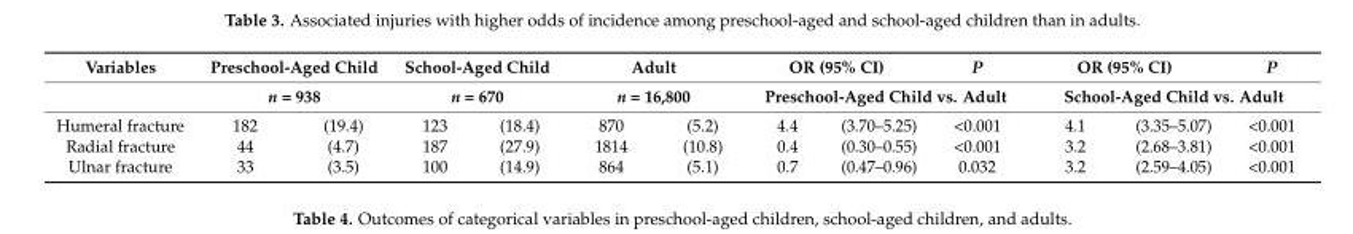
<table><thead><tr><td rowspan="3">Variables Humeral fracture</td><td rowspan="2" colspan="2">Preschool-Aged Child n = 938</td><td rowspan="2" colspan="2">School-Aged Child n = 670</td><td rowspan="2" colspan="2">Adult n = 16,800</td><td colspan="2">OR (95% CI)</td><td>P</td><td colspan="2">OR (95% CI)</td><td>P</td></tr><tr><td colspan="3">Preschool-Aged Child vs. Adult</td><td colspan="3">School-Aged Child vs. Adult</td></tr><tr><td>182</td><td>(19.4)</td><td>123</td><td>(18.4)</td><td>870</td><td>(5.2)</td><td>4.4</td><td>(3.70–5.25)</td><td>&lt;0.001</td><td>4.1</td><td>(3.35–5.07)</td><td>&lt;0.001</td></tr></thead><tbody><tr><td>Radial fracture</td><td>44</td><td>(4.7)</td><td>187</td><td>(27.9)</td><td>1814</td><td>(10.8)</td><td>0.4</td><td>(0.30–0.55)</td><td>&lt;0.001</td><td>3.2</td><td>(2.68–3.81)</td><td>&lt;0.001</td></tr><tr><td>Ulnar fracture</td><td>33</td><td>(3.5)</td><td>100</td><td>(14.9)</td><td>864</td><td>(5.1)</td><td>0.7</td><td>(0.47–0.96)</td><td>0.032</td><td>3.2</td><td>(2.59–4.05)</td><td>&lt;0.001</td></tr></tbody></table>